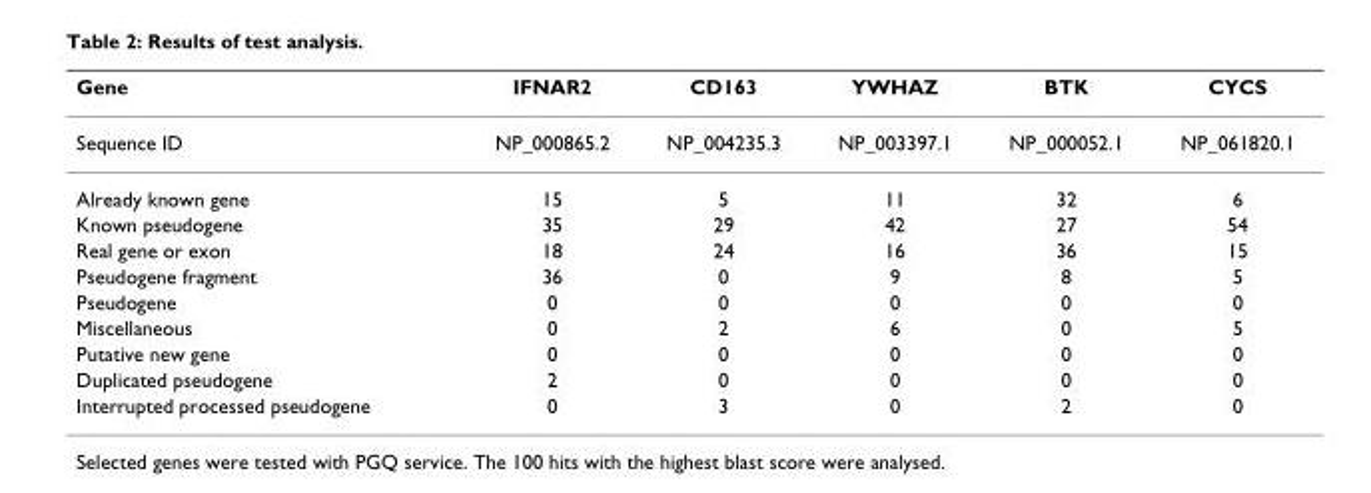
<table><thead><tr><td>Gene</td><td>IFNAR2</td><td>CD163</td><td>YWHAZ</td><td>BTK</td><td>CYCS</td></tr></thead><tbody><tr><td>Sequence ID</td><td>NP_000865.2</td><td>NP_004235.3</td><td>NP_003397.1</td><td>NP_000052.1</td><td>NP_061820.1</td></tr><tr><td>Already known gene</td><td>15</td><td>5</td><td>11</td><td>32</td><td>6</td></tr><tr><td>Known pseudogene</td><td>35</td><td>29</td><td>42</td><td>27</td><td>54</td></tr><tr><td>Real gene or exon</td><td>18</td><td>24</td><td>16</td><td>36</td><td>15</td></tr><tr><td>Pseudogene fragment</td><td>36</td><td>0</td><td>9</td><td>8</td><td>5</td></tr><tr><td>Pseudogene</td><td>0</td><td>0</td><td>0</td><td>0</td><td>0</td></tr><tr><td>Miscellaneous</td><td>0</td><td>2</td><td>6</td><td>0</td><td>5</td></tr><tr><td>Putative new gene</td><td>0</td><td>0</td><td>0</td><td>0</td><td>0</td></tr><tr><td>Duplicated pseudogene</td><td>2</td><td>0</td><td>0</td><td>0</td><td>0</td></tr><tr><td>Interrupted processed pseudogene</td><td>0</td><td>3</td><td>0</td><td>2</td><td>0</td></tr></tbody></table>